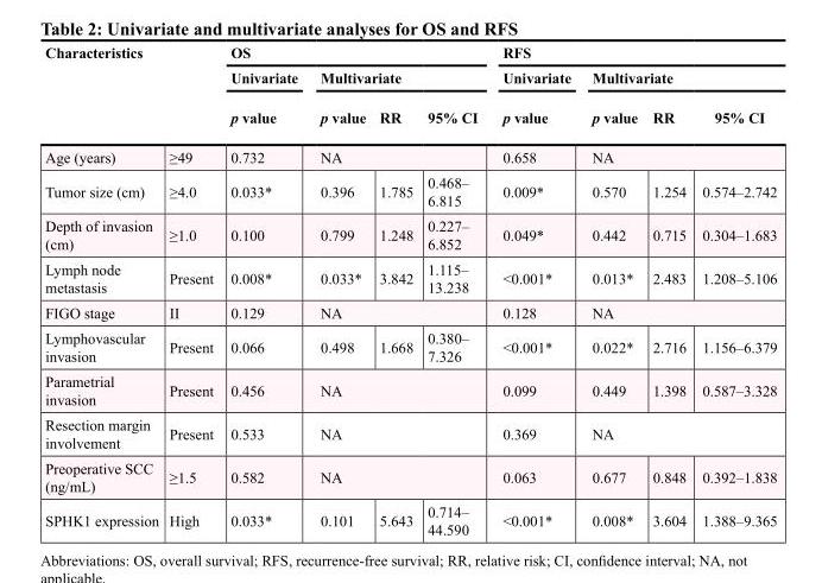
<table><thead><tr><td rowspan="3" colspan="2">Characteristics</td><td colspan="4">OS</td><td colspan="4">RFS</td></tr><tr><td rowspan="3">Univariate p value 0.732</td><td colspan="3">Multivariate</td><td rowspan="3">Univariate p value 0.658</td><td colspan="3">Multivariate</td></tr><tr><td>p value</td><td>RR</td><td>95% CI</td><td>p value</td><td>RR</td><td>95% CI</td></tr><tr><td>Age (years)</td><td>≥49</td><td colspan="3">NA</td><td colspan="3">NA</td></tr></thead><tbody><tr><td>Tumor size (cm)</td><td>≥4.0</td><td>0.033*</td><td>0.396</td><td>1.785</td><td>0.468– 6.815</td><td>0.009*</td><td>0.570</td><td>1.254</td><td>0.574–2.742</td></tr><tr><td>Depth of invasion (cm)</td><td>≥1.0</td><td>0.100</td><td>0.799</td><td>1.248</td><td>0.227– 6.852</td><td>0.049*</td><td>0.442</td><td>0.715</td><td>0.304–1.683</td></tr><tr><td>Lymph node metastasis</td><td>Present</td><td>0.008*</td><td>0.033*</td><td>3.842</td><td>1.115– 13.238</td><td>&lt;0.001*</td><td>0.013*</td><td>2.483</td><td>1.208–5.106</td></tr><tr><td>FIGO stage</td><td>II</td><td>0.129</td><td colspan="3">NA</td><td>0.128</td><td colspan="3">NA</td></tr><tr><td>Lymphovascular invasion</td><td>Present</td><td>0.066</td><td>0.498</td><td>1.668</td><td>0.380– 7.326</td><td>&lt;0.001*</td><td>0.022*</td><td>2.716</td><td>1.156–6.379</td></tr><tr><td>Parametrial invasion</td><td>Present</td><td>0.456</td><td colspan="3">NA</td><td>0.099</td><td>0.449</td><td>1.398</td><td>0.587–3.328</td></tr><tr><td>Resection margin involvement</td><td>Present</td><td>0.533</td><td colspan="3">NA</td><td>0.369</td><td colspan="3">NA</td></tr><tr><td>Preoperative SCC (ng/mL)</td><td>≥1.5</td><td>0.582</td><td colspan="3">NA</td><td>0.063</td><td>0.677</td><td>0.848</td><td>0.392–1.838</td></tr><tr><td>SPHK1 expression</td><td>High</td><td>0.033*</td><td>0.101</td><td>5.643</td><td>0.714– 44.590</td><td>&lt;0.001*</td><td>0.008*</td><td>3.604</td><td>1.388–9.365</td></tr></tbody></table>